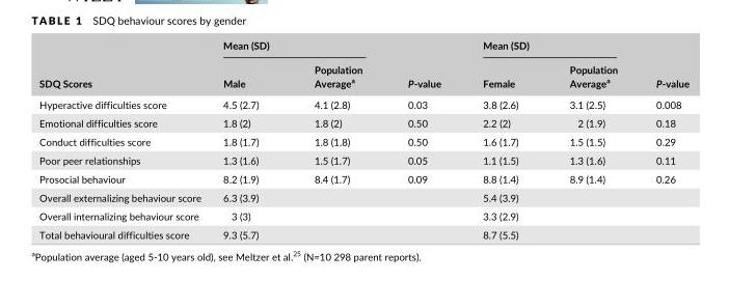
<table><thead><tr><td rowspan="2">SDQ Scores</td><td colspan="2">Mean (SD)</td><td rowspan="2">P- value</td><td colspan="2">Mean (SD)</td><td rowspan="2">P- value</td></tr><tr><td>Male</td><td>Population Average<sup>a</sup></td><td>Female</td><td>Population Average<sup>a</sup></td></tr></thead><tbody><tr><td>Hyperactive difficulties score</td><td>4.5 (2.7)</td><td>4.1 (2.8)</td><td>0.03</td><td>3.8 (2.6)</td><td>3.1 (2.5)</td><td>0.008</td></tr><tr><td>Emotional difficulties score</td><td>1.8 (2)</td><td>1.8 (2)</td><td>0.50</td><td>2.2 (2)</td><td>2 (1.9)</td><td>0.18</td></tr><tr><td>Conduct difficulties score</td><td>1.8 (1.7)</td><td>1.8 (1.8)</td><td>0.50</td><td>1.6 (1.7)</td><td>1.5 (1.5)</td><td>0.29</td></tr><tr><td>Poor peer relationships</td><td>1.3 (1.6)</td><td>1.5 (1.7)</td><td>0.05</td><td>1.1 (1.5)</td><td>1.3 (1.6)</td><td>0.11</td></tr><tr><td>Prosocial behaviour</td><td>8.2 (1.9)</td><td>8.4 (1.7)</td><td>0.09</td><td>8.8 (1.4)</td><td>8.9 (1.4)</td><td>0.26</td></tr><tr><td>Overall externalizing behaviour score</td><td>6.3 (3.9)</td><td></td><td></td><td>5.4 (3.9)</td><td></td><td></td></tr><tr><td>Overall internalizing behaviour score</td><td>3 (3)</td><td></td><td></td><td>3.3 (2.9)</td><td></td><td></td></tr><tr><td>Total behavioural difficulties score</td><td>9.3 (5.7)</td><td></td><td></td><td>8.7 (5.5)</td><td></td><td></td></tr></tbody></table>